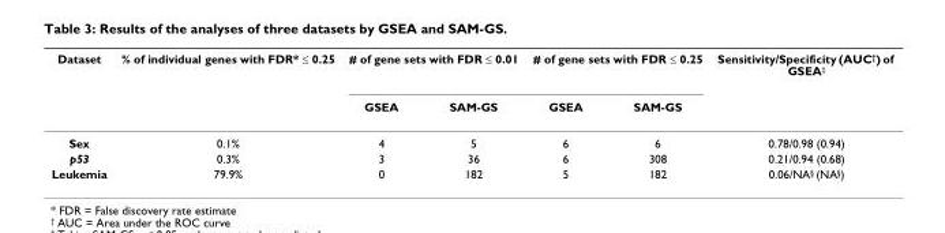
<table><thead><tr><td rowspan="2">Dataset</td><td rowspan="2">% of individual genes with FDR* ≤ 0.25</td><td colspan="2"># of gene sets with FDR ≤ 0.01</td><td colspan="2"># of gene sets with FDR ≤ 0.25</td><td rowspan="2">Sensitivity/Specificity (AUC<sup>†</sup>) of GSEA<sup>‡</sup></td></tr><tr><td>GSEA</td><td>SAM-GS</td><td>GSEA</td><td>SAM-GS</td></tr></thead><tbody><tr><td>Sex</td><td>0.1%</td><td>4</td><td>5</td><td>6</td><td>6</td><td>0.78/0.98 (0.94)</td></tr><tr><td>p53</td><td>0.3%</td><td>3</td><td>36</td><td>6</td><td>308</td><td>0.21/0.94 (0.68)</td></tr><tr><td>Leukemia</td><td>79.9%</td><td>0</td><td>182</td><td>5</td><td>182</td><td>0.06/NA<sup>§</sup> (NA<sup>§</sup>)</td></tr></tbody></table>